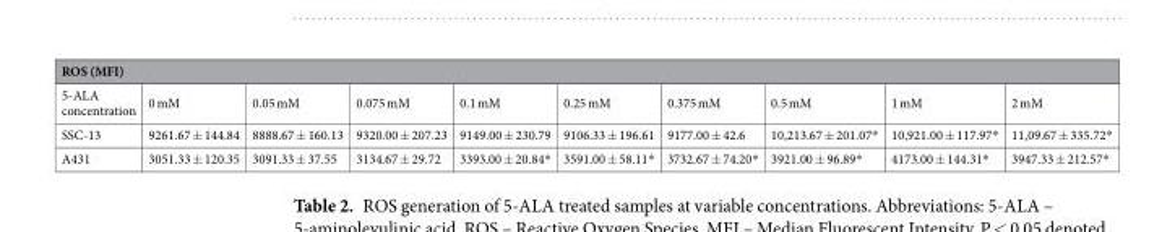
<table><thead><tr><td colspan="10">ROS (MFI)</td></tr><tr><td>5-ALA concentration</td><td>0 mM</td><td>0.05 mM</td><td>0.075 mM</td><td>0.1 mM</td><td>0.25 mM</td><td>0.375 mM</td><td>0.5 mM</td><td>1 mM</td><td>2 mM</td></tr></thead><tbody><tr><td>SSC-13</td><td>9261.67 ± 144.84</td><td>8888.67 ± 160.13</td><td>9320.00 ± 207.23</td><td>9149.00 ± 230.79</td><td>9106.33 ± 196.61</td><td>9177.00 ± 42.6</td><td>10,213.67 ± 201.07*</td><td>10,921.00 ± 117.97*</td><td>11,09.67 ± 335.72*</td></tr><tr><td>A431</td><td>3051.33 ± 120.35</td><td>3091.33 ± 37.55</td><td>3134.67 ± 29.72</td><td>3393.00 ± 20.84*</td><td>3591.00 ± 58.11*</td><td>3732.67 ± 74.20*</td><td>3921.00 ± 96.89*</td><td>4173.00 ± 144.31*</td><td>3947.33 ± 212.57*</td></tr></tbody></table>